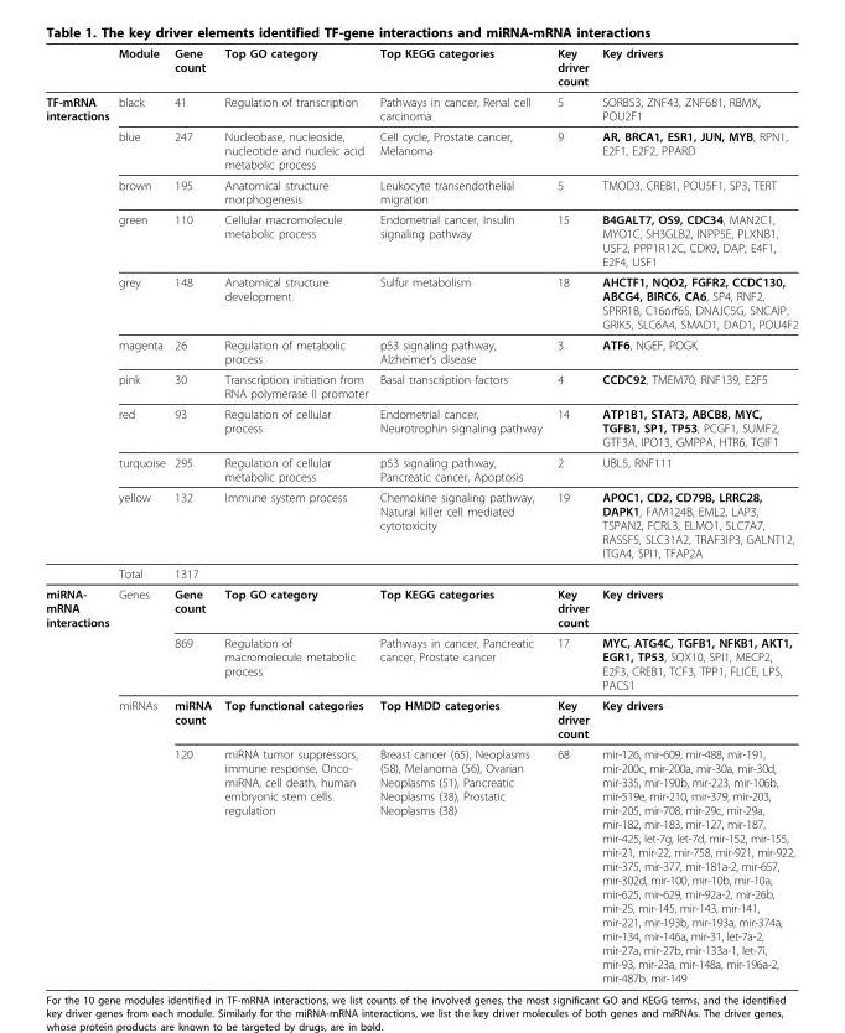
<table><thead><tr><td></td><td>Module</td><td>Gene count</td><td>Top GO category</td><td>Top KEGG categories</td><td>Key driver count</td><td>Key drivers</td></tr></thead><tbody><tr><td rowspan="11">TF-mRNA interactions</td><td>black</td><td>41</td><td>Regulation of transcription</td><td>Pathways in cancer, Renal cell carcinoma</td><td>5</td><td>SORBS3, ZNF43, ZNF681, RBMX, POU2F1</td></tr><tr><td>blue</td><td>247</td><td>Nucleobase, nucleoside, nucleotide and nucleic acid metabolic process</td><td>Cell cycle, Prostate cancer, Melanoma</td><td>9</td><td>AR, BRCA1, ESR1, JUN, MYB, RPN1, E2F1, E2F2, PPARD</td></tr><tr><td>brown</td><td>195</td><td>Anatomical structure morphogenesis</td><td>Leukocyte transendothelial migration</td><td>5</td><td>TMOD3, CREB1, POU5F1, SP3, TERT</td></tr><tr><td>green</td><td>110</td><td>Cellular macromolecule metabolic process</td><td>Endometrial cancer, Insulin signaling pathway</td><td>15</td><td>B4GALT7, OS9, CDC34, MAN2C1, MYO1C, SH3GLB2, INPP5E, PLXNB1, USF2, PPP1R12C, CDK9, DAP, E4F1, E2F4, USF1</td></tr><tr><td>grey</td><td>148</td><td>Anatomical structure development</td><td>Sulfur metabolism</td><td>18</td><td>AHCTF1, NQO2, FGFR2, CCDC130, ABCG4, BIRC6, CA6, SP4, RNF2, SPRR1B, C16orf65, DNAJC5G, SNCAIP, GRIK5, SLC6A4, SMAD1, DAD1, POU4F2</td></tr><tr><td>magenta</td><td>26</td><td>Regulation of metabolic process</td><td>p53 signaling pathway, Alzheimer’s disease</td><td>3</td><td>ATF6, NGEF, POGK</td></tr><tr><td>pink</td><td>30</td><td>Transcription initiation from RNA polymerase II promoter</td><td>Basal transcription factors</td><td>4</td><td>CCDC92, TMEM70, RNF139, E2F5</td></tr><tr><td>red</td><td>93</td><td>Regulation of cellular process</td><td>Endometrial cancer, Neurotrophin signaling pathway</td><td>14</td><td>ATP1B1, STAT3, ABCB8, MYC, TGFB1, SP1, TP53, PCGF1, SUMF2, GTF3A, IPO13, GMPPA, HTR6, TGIF1</td></tr><tr><td>turquoise</td><td>295</td><td>Regulation of cellular metabolic process</td><td>p53 signaling pathway, Pancreatic cancer, Apoptosis</td><td>2</td><td>UBL5, RNF111</td></tr><tr><td>yellow</td><td>132</td><td>Immune system process</td><td>Chemokine signaling pathway, Natural killer cell mediated cytotoxicity</td><td>19</td><td>APOC1, CD2, CD79B, LRRC28, DAPK1, FAM124B, EML2, LAP3, TSPAN2, FCRL3, ELMO1, SLC7A7, RASSF5, SLC31A2, TRAF3IP3, GALNT12, ITGA4, SPI1, TFAP2A</td></tr><tr><td>Total</td><td>1317</td><td></td><td></td><td></td><td></td></tr><tr><td rowspan="4">miRNA- mRNA interactions</td><td>Genes</td><td>Gene count</td><td>Top GO category</td><td>Top KEGG categories</td><td>Key driver count</td><td>Key drivers</td></tr><tr><td></td><td>869</td><td>Regulation of macromolecule metabolic process</td><td>Pathways in cancer, Pancreatic cancer, Prostate cancer</td><td>17</td><td>MYC, ATG4C, TGFB1, NFKB1, AKT1, EGR1, TP53, SOX10, SPI1, MECP2, E2F3, CREB1, TCF3, TPP1, FLICE, LPS, PACS1</td></tr><tr><td>miRNAs</td><td>miRNA count</td><td>Top functional categories</td><td>Top HMDD categories</td><td>Key driver count</td><td>Key drivers</td></tr><tr><td></td><td>120</td><td>miRNA tumor suppressors, immune response, Onco- miRNA, cell death, human embryonic stem cells regulation</td><td>Breast cancer (65), Neoplasms (58), Melanoma (56), Ovarian Neoplasms (51), Pancreatic Neoplasms (38), Prostatic Neoplasms (38)</td><td>68</td><td>mir-126, mir-609, mir-488, mir-191, mir-200c, mir-200a, mir-30a, mir-30d, mir-335, mir-190b, mir-223, mir-106b, mir-519e, mir-210, mir-379, mir-203, mir-205, mir-708, mir-29c, mir-29a, mir-182, mir-183, mir-127, mir-187, mir-425, let-7g, let-7d, mir-152, mir-155, mir-21, mir-22, mir-758, mir-921, mir-922, mir-375, mir-377, mir-181a-2, mir-657, mir-302d, mir-100, mir-10b, mir-10a, mir-625, mir-629, mir-92a-2, mir-26b, mir-25, mir-145, mir-143, mir-141, mir-221, mir-193b, mir-193a, mir-374a, mir-134, mir-146a, mir-31, let-7a-2, mir-27a, mir-27b, mir-133a-1, let-7i, mir-93, mir-23a, mir-148a, mir-196a-2, mir-487b, mir-149</td></tr></tbody></table>